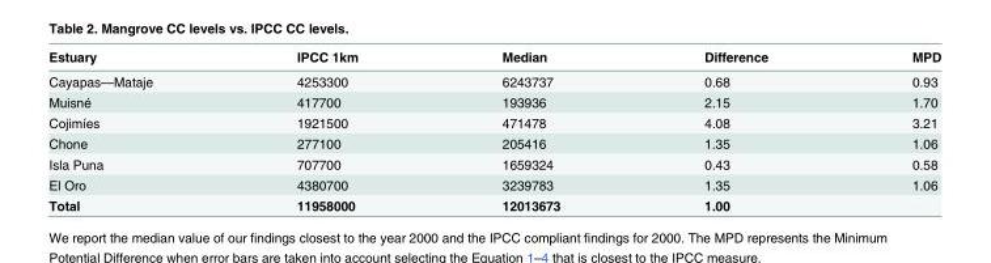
<table><thead><tr><td>Estuary</td><td>IPCC 1km</td><td>Median</td><td>Difference</td><td>MPD</td></tr></thead><tbody><tr><td>Cayapas—Mataje</td><td>4253300</td><td>6243737</td><td>0.68</td><td>0.93</td></tr><tr><td>Muisné</td><td>417700</td><td>193936</td><td>2.15</td><td>1.70</td></tr><tr><td>Cojimíes</td><td>1921500</td><td>471478</td><td>4.08</td><td>3.21</td></tr><tr><td>Chone</td><td>277100</td><td>205416</td><td>1.35</td><td>1.06</td></tr><tr><td>Isla Puna</td><td>707700</td><td>1659324</td><td>0.43</td><td>0.58</td></tr><tr><td>El Oro</td><td>4380700</td><td>3239783</td><td>1.35</td><td>1.06</td></tr><tr><td>Total</td><td>11958000</td><td>12013673</td><td>1.00</td><td></td></tr></tbody></table>